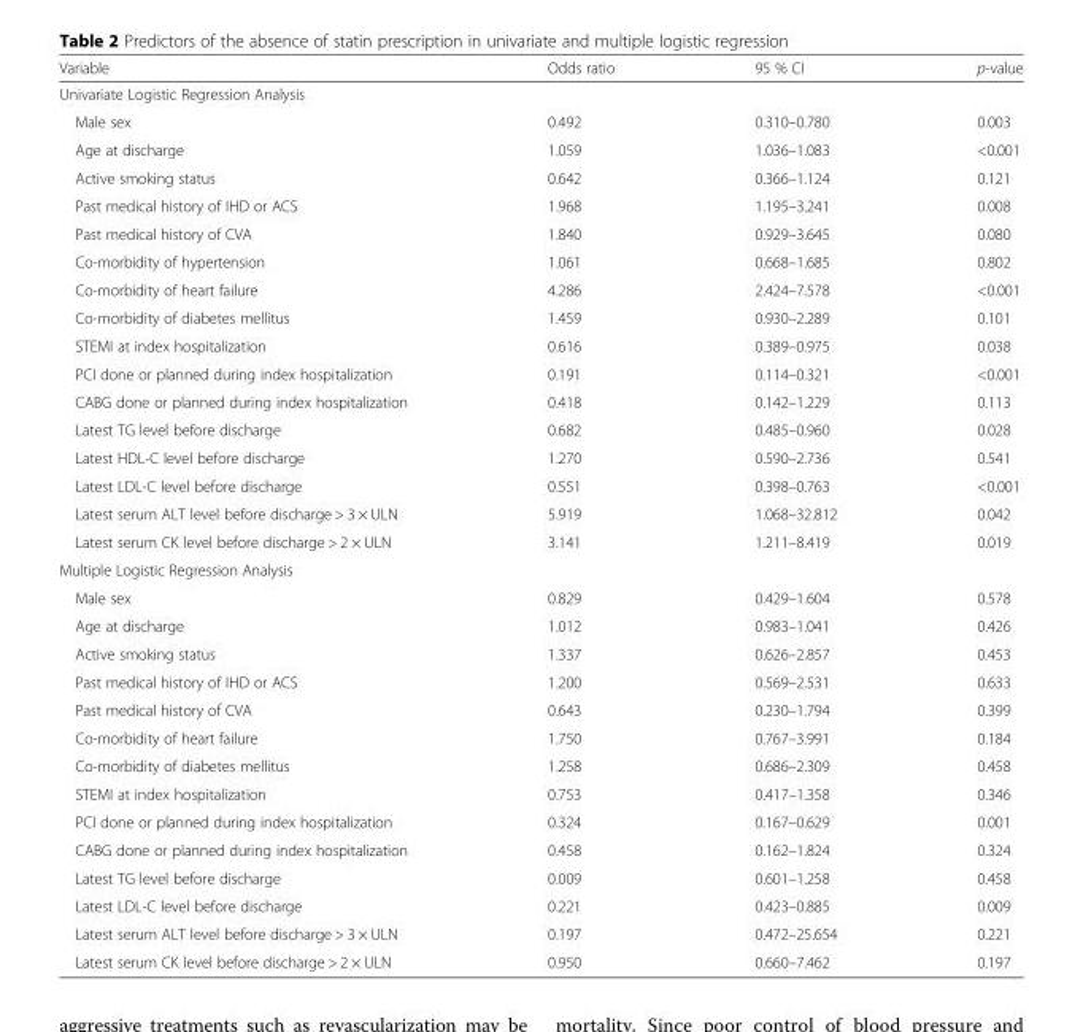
<table><thead><tr><td>Variable</td><td>Odds ratio</td><td>95 % CI</td><td>p-value</td></tr></thead><tbody><tr><td colspan="4">Univariate Logistic Regression Analysis</td></tr><tr><td>Male sex</td><td>0.492</td><td>0.310–0.780</td><td>0.003</td></tr><tr><td>Age at discharge</td><td>1.059</td><td>1.036–1.083</td><td>&lt;0.001</td></tr><tr><td>Active smoking status</td><td>0.642</td><td>0.366–1.124</td><td>0.121</td></tr><tr><td>Past medical history of IHD or ACS</td><td>1.968</td><td>1.195–3.241</td><td>0.008</td></tr><tr><td>Past medical history of CVA</td><td>1.840</td><td>0.929–3.645</td><td>0.080</td></tr><tr><td>Co-morbidity of hypertension</td><td>1.061</td><td>0.668–1.685</td><td>0.802</td></tr><tr><td>Co-morbidity of heart failure</td><td>4.286</td><td>2.424–7.578</td><td>&lt;0.001</td></tr><tr><td>Co-morbidity of diabetes mellitus</td><td>1.459</td><td>0.930–2.289</td><td>0.101</td></tr><tr><td>STEMI at index hospitalization</td><td>0.616</td><td>0.389–0.975</td><td>0.038</td></tr><tr><td>PCI done or planned during index hospitalization</td><td>0.191</td><td>0.114–0.321</td><td>&lt;0.001</td></tr><tr><td>CABG done or planned during index hospitalization</td><td>0.418</td><td>0.142–1.229</td><td>0.113</td></tr><tr><td>Latest TG level before discharge</td><td>0.682</td><td>0.485–0.960</td><td>0.028</td></tr><tr><td>Latest HDL-C level before discharge</td><td>1.270</td><td>0.590–2.736</td><td>0.541</td></tr><tr><td>Latest LDL-C level before discharge</td><td>0.551</td><td>0.398–0.763</td><td>&lt;0.001</td></tr><tr><td>Latest serum ALT level before discharge &gt; 3 × ULN</td><td>5.919</td><td>1.068–32.812</td><td>0.042</td></tr><tr><td>Latest serum CK level before discharge &gt; 2 × ULN</td><td>3.141</td><td>1.211–8.419</td><td>0.019</td></tr><tr><td colspan="4">Multiple Logistic Regression Analysis</td></tr><tr><td>Male sex</td><td>0.829</td><td>0.429–1.604</td><td>0.578</td></tr><tr><td>Age at discharge</td><td>1.012</td><td>0.983–1.041</td><td>0.426</td></tr><tr><td>Active smoking status</td><td>1.337</td><td>0.626–2.857</td><td>0.453</td></tr><tr><td>Past medical history of IHD or ACS</td><td>1.200</td><td>0.569–2.531</td><td>0.633</td></tr><tr><td>Past medical history of CVA</td><td>0.643</td><td>0.230–1.794</td><td>0.399</td></tr><tr><td>Co-morbidity of heart failure</td><td>1.750</td><td>0.767–3.991</td><td>0.184</td></tr><tr><td>Co-morbidity of diabetes mellitus</td><td>1.258</td><td>0.686–2.309</td><td>0.458</td></tr><tr><td>STEMI at index hospitalization</td><td>0.753</td><td>0.417–1.358</td><td>0.346</td></tr><tr><td>PCI done or planned during index hospitalization</td><td>0.324</td><td>0.167–0.629</td><td>0.001</td></tr><tr><td>CABG done or planned during index hospitalization</td><td>0.458</td><td>0.162–1.824</td><td>0.324</td></tr><tr><td>Latest TG level before discharge</td><td>0.009</td><td>0.601–1.258</td><td>0.458</td></tr><tr><td>Latest LDL-C level before discharge</td><td>0.221</td><td>0.423–0.885</td><td>0.009</td></tr><tr><td>Latest serum ALT level before discharge &gt; 3 × ULN</td><td>0.197</td><td>0.472–25.654</td><td>0.221</td></tr><tr><td>Latest serum CK level before discharge &gt; 2 × ULN</td><td>0.950</td><td>0.660–7.462</td><td>0.197</td></tr></tbody></table>